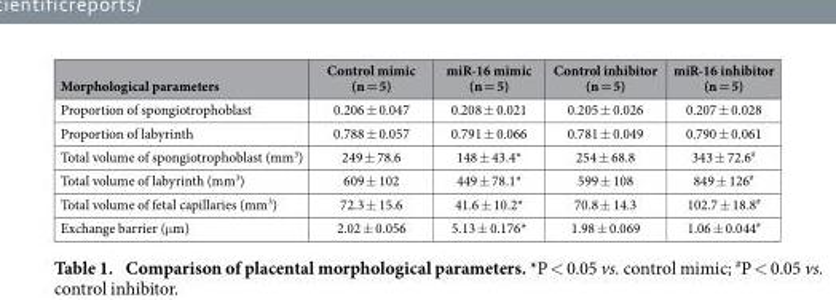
<table><thead><tr><td>Morphological parameters</td><td>Control mimic (n = 5)</td><td>miR-16 mimic (n = 5)</td><td>Control inhibitor (n = 5)</td><td>miR-16 inhibitor (n = 5)</td></tr></thead><tbody><tr><td>Proportion of spongiotrophoblast</td><td>0.206 ± 0.047</td><td>0.208 ± 0.021</td><td>0.205 ± 0.026</td><td>0.207 ± 0.028</td></tr><tr><td>Proportion of labyrinth</td><td>0.788 ± 0.057</td><td>0.791 ± 0.066</td><td>0.781 ± 0.049</td><td>0.790 ± 0.061</td></tr><tr><td>Total volume of spongiotrophoblast (mm<sup>3</sup>)</td><td>249 ± 78.6</td><td>148 ± 43.4*</td><td>254 ± 68.8</td><td>343 ± 72.6<sup>#</sup></td></tr><tr><td>Total volume of labyrinth (mm<sup>3</sup>)</td><td>609 ± 102</td><td>449 ± 78.1*</td><td>599 ± 108</td><td>849 ± 126<sup>#</sup></td></tr><tr><td>Total volume of fetal capillaries (mm<sup>3</sup>)</td><td>72.3 ± 15.6</td><td>41.6 ± 10.2*</td><td>70.8 ± 14.3</td><td>102.7 ± 18.8<sup>#</sup></td></tr><tr><td>Exchange barrier (μ m)</td><td>2.02 ± 0.056</td><td>5.13 ± 0.176*</td><td>1.98 ± 0.069</td><td>1.06 ± 0.044<sup>#</sup></td></tr></tbody></table>